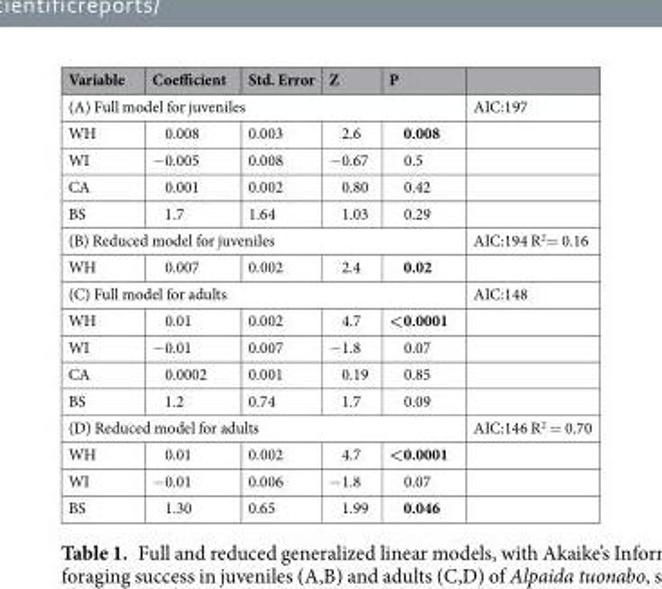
<table><thead><tr><td>Variable</td><td>Coefficient</td><td>Std. Error</td><td>Z</td><td>P</td><td></td></tr></thead><tbody><tr><td colspan="5">(A) Full model for juveniles</td><td>AIC:197</td></tr><tr><td>WH</td><td>0.008</td><td>0.003</td><td>2.6</td><td>0.008</td><td></td></tr><tr><td>WI</td><td>−0.005</td><td>0.008</td><td>−0.67</td><td>0.5</td><td></td></tr><tr><td>CA</td><td>0.001</td><td>0.002</td><td>0.80</td><td>0.42</td><td></td></tr><tr><td>BS</td><td>1.7</td><td>1.64</td><td>1.03</td><td>0.29</td><td></td></tr><tr><td colspan="5">(B) Reduced model for juveniles</td><td>AIC:194 R<sup>2</sup>= 0.16</td></tr><tr><td>WH</td><td>0.007</td><td>0.002</td><td>2.4</td><td>0.02</td><td></td></tr><tr><td colspan="5">(C) Full model for adults</td><td>AIC:148</td></tr><tr><td>WH</td><td>0.01</td><td>0.002</td><td>4.7</td><td>&lt;0.0001</td><td></td></tr><tr><td>WI</td><td>−0.01</td><td>0.007</td><td>−1.8</td><td>0.07</td><td></td></tr><tr><td>CA</td><td>0.0002</td><td>0.001</td><td>0.19</td><td>0.85</td><td></td></tr><tr><td>BS</td><td>1.2</td><td>0.74</td><td>1.7</td><td>0.09</td><td></td></tr><tr><td colspan="5">(D) Reduced model for adults</td><td>AIC:146 R<sup>2</sup> = 0.70</td></tr><tr><td>WH</td><td>0.01</td><td>0.002</td><td>4.7</td><td>&lt;0.0001</td><td></td></tr><tr><td>WI</td><td>−0.01</td><td>0.006</td><td>−1.8</td><td>0.07</td><td></td></tr><tr><td>BS</td><td>1.30</td><td>0.65</td><td>1.99</td><td>0.046</td><td></td></tr></tbody></table>